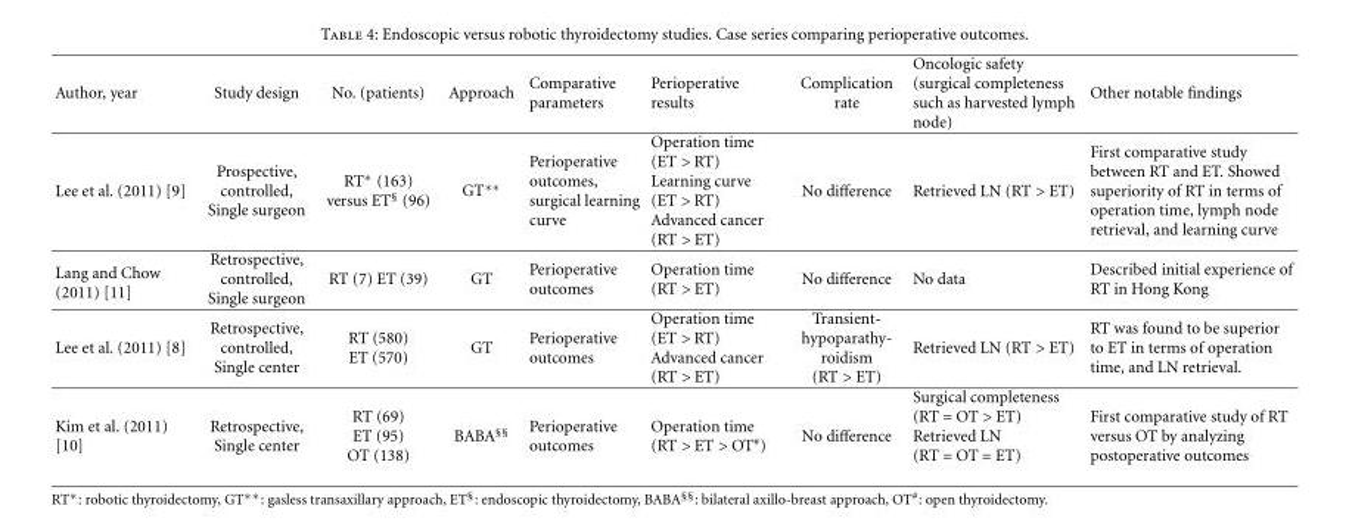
<table><thead><tr><td>Author, year</td><td>Study design</td><td>No. (patients)</td><td>Approach</td><td>Comparative parameters</td><td>Perioperative results</td><td>Complication rate</td><td>Oncologic safety (surgical completeness such as harvested lymph node)</td><td>Other notable findings</td></tr></thead><tbody><tr><td>Lee et al. (2011) [9]</td><td>Prospective, controlled, Single surgeon</td><td>RT∗ (163) versus ET§ (96)</td><td>GT∗∗</td><td>Perioperative outcomes, surgical learning curve</td><td>Operation time (ET &gt; RT) Learning curve (ET &gt; RT) Advanced cancer (RT &gt; ET)</td><td>No difference</td><td>Retrieved LN (RT &gt; ET)</td><td>First comparative study between RT and ET. Showed superiority of RT in terms of operation time, lymph node retrieval, and learning curve</td></tr><tr><td>Lang and Chow (2011) [11]</td><td>Retrospective, controlled, Single surgeon</td><td>RT (7) ET (39)</td><td>GT</td><td>Perioperative outcomes</td><td>Operation time (RT &gt; ET)</td><td>No difference</td><td>No data</td><td>Described initial experience of RT in Hong Kong</td></tr><tr><td>Lee et al. (2011) [8]</td><td>Retrospective, controlled, Single center</td><td>RT (580) ET (570)</td><td>GT</td><td>Perioperative outcomes</td><td>Operation time (ET &gt; RT) Advanced cancer (RT &gt; ET)</td><td>Transient- hypoparathy- roidism (RT &gt; ET)</td><td>Retrieved LN (RT &gt; ET)</td><td>RT was found to be superior to ET in terms of operation time, and LN retrieval.</td></tr><tr><td>Kim et al. (2011) [10]</td><td>Retrospective, Single center</td><td>RT (69) ET (95) OT (138)</td><td>BABA§§</td><td>Perioperative outcomes</td><td>Operation time (RT &gt; ET &gt; OT#)</td><td>No difference</td><td>Surgical completeness (RT = OT &gt; ET) Retrieved LN (RT = OT = ET)</td><td>First comparative study of RT versus OT by analyzing postoperative outcomes</td></tr></tbody></table>